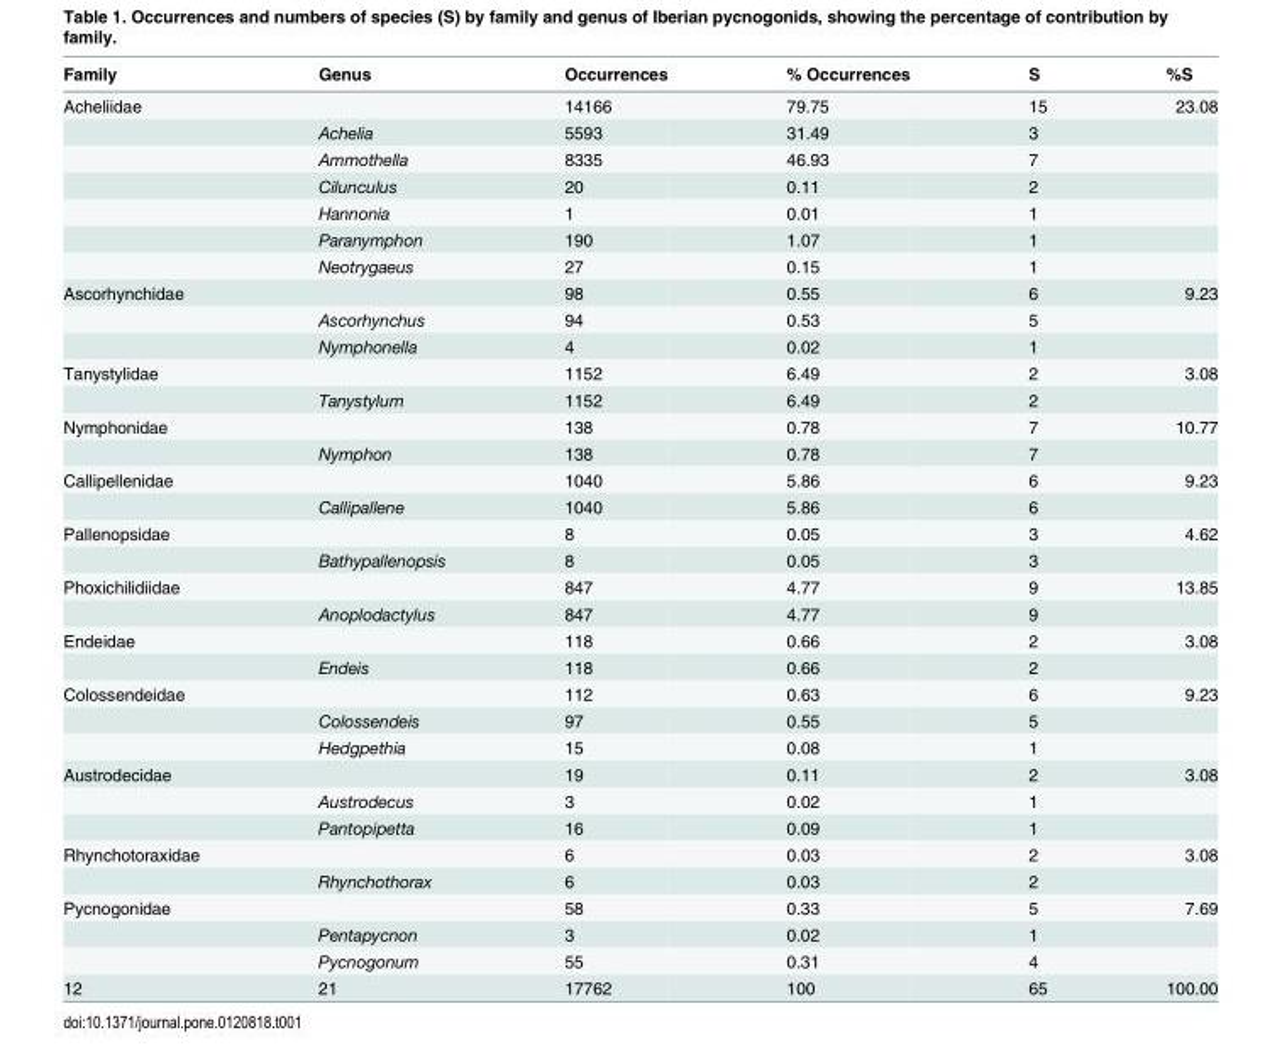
<table><thead><tr><td>Family</td><td>Genus</td><td>Occurrences</td><td>% Occurrences</td><td>S</td><td>%S</td></tr></thead><tbody><tr><td rowspan="7">Acheliidae</td><td></td><td>14166</td><td>79.75</td><td>15</td><td>23.08</td></tr><tr><td>Achelia</td><td>5593</td><td>31.49</td><td>3</td><td></td></tr><tr><td>Ammothella</td><td>8335</td><td>46.93</td><td>7</td><td></td></tr><tr><td>Cilunculus</td><td>20</td><td>0.11</td><td>2</td><td></td></tr><tr><td>Hannonia</td><td>1</td><td>0.01</td><td>1</td><td></td></tr><tr><td>Paranymphon</td><td>190</td><td>1.07</td><td>1</td><td></td></tr><tr><td>Neotrygaeus</td><td>27</td><td>0.15</td><td>1</td><td></td></tr><tr><td rowspan="3">Ascorhynchidae</td><td></td><td>98</td><td>0.55</td><td>6</td><td>9.23</td></tr><tr><td>Ascorhynchus</td><td>94</td><td>0.53</td><td>5</td><td></td></tr><tr><td>Nymphonella</td><td>4</td><td>0.02</td><td>1</td><td></td></tr><tr><td rowspan="2">Tanystylidae</td><td></td><td>1152</td><td>6.49</td><td>2</td><td>3.08</td></tr><tr><td>Tanystylum</td><td>1152</td><td>6.49</td><td>2</td><td></td></tr><tr><td rowspan="2">Nymphonidae</td><td></td><td>138</td><td>0.78</td><td>7</td><td>10.77</td></tr><tr><td>Nymphon</td><td>138</td><td>0.78</td><td>7</td><td></td></tr><tr><td rowspan="2">Callipellenidae</td><td></td><td>1040</td><td>5.86</td><td>6</td><td>9.23</td></tr><tr><td>Callipallene</td><td>1040</td><td>5.86</td><td>6</td><td></td></tr><tr><td rowspan="2">Pallenopsidae</td><td></td><td>8</td><td>0.05</td><td>3</td><td>4.62</td></tr><tr><td>Bathypallenopsis</td><td>8</td><td>0.05</td><td>3</td><td></td></tr><tr><td rowspan="2">Phoxichilidiidae</td><td></td><td>847</td><td>4.77</td><td>9</td><td>13.85</td></tr><tr><td>Anoplodactylus</td><td>847</td><td>4.77</td><td>9</td><td></td></tr><tr><td rowspan="2">Endeidae</td><td></td><td>118</td><td>0.66</td><td>2</td><td>3.08</td></tr><tr><td>Endeis</td><td>118</td><td>0.66</td><td>2</td><td></td></tr><tr><td rowspan="3">Colossendeidae</td><td></td><td>112</td><td>0.63</td><td>6</td><td>9.23</td></tr><tr><td>Colossendeis</td><td>97</td><td>0.55</td><td>5</td><td></td></tr><tr><td>Hedgpethia</td><td>15</td><td>0.08</td><td>1</td><td></td></tr><tr><td rowspan="3">Austrodecidae</td><td></td><td>19</td><td>0.11</td><td>2</td><td>3.08</td></tr><tr><td>Austrodecus</td><td>3</td><td>0.02</td><td>1</td><td></td></tr><tr><td>Pantopipetta</td><td>16</td><td>0.09</td><td>1</td><td></td></tr><tr><td rowspan="2">Rhynchotoraxidae</td><td></td><td>6</td><td>0.03</td><td>2</td><td>3.08</td></tr><tr><td>Rhynchothorax</td><td>6</td><td>0.03</td><td>2</td><td></td></tr><tr><td rowspan="3">Pycnogonidae</td><td></td><td>58</td><td>0.33</td><td>5</td><td>7.69</td></tr><tr><td>Pentapycnon</td><td>3</td><td>0.02</td><td>1</td><td></td></tr><tr><td>Pycnogonum</td><td>55</td><td>0.31</td><td>4</td><td></td></tr><tr><td>12</td><td>21</td><td>17762</td><td>100</td><td>65</td><td>100.00</td></tr></tbody></table>